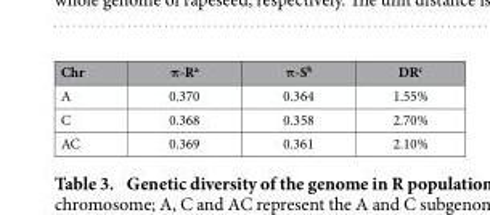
<table><thead><tr><td>Chr</td><td>π-R<sup>a</sup></td><td>π-S<sup>b</sup></td><td>DR<sup>c</sup></td></tr></thead><tbody><tr><td>A</td><td>0.370</td><td>0.364</td><td>1.55%</td></tr><tr><td>C</td><td>0.368</td><td>0.358</td><td>2.70%</td></tr><tr><td>AC</td><td>0.369</td><td>0.361</td><td>2.10%</td></tr></tbody></table>